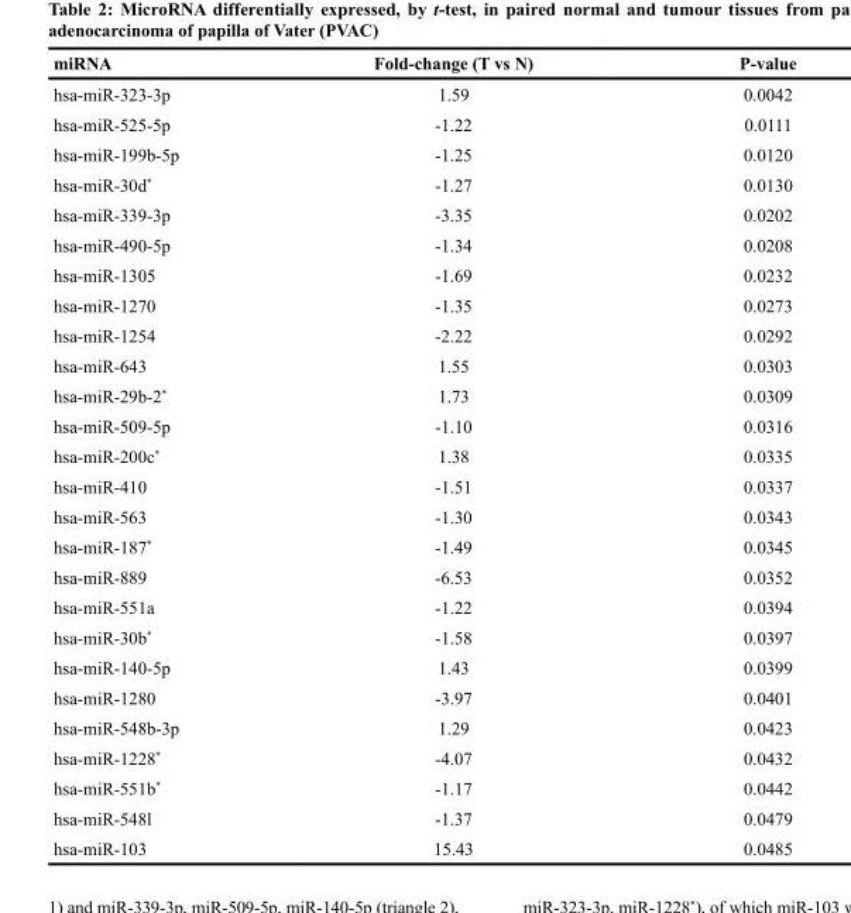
<table><thead><tr><td>miRNA</td><td>Fold-change (T vs N)</td><td>P-value</td></tr></thead><tbody><tr><td>hsa-miR-323-3p</td><td>1.59</td><td>0.0042</td></tr><tr><td>hsa-miR-525-5p</td><td>-1.22</td><td>0.0111</td></tr><tr><td>hsa-miR-199b-5p</td><td>-1.25</td><td>0.0120</td></tr><tr><td>hsa-miR-30d*</td><td>-1.27</td><td>0.0130</td></tr><tr><td>hsa-miR-339-3p</td><td>-3.35</td><td>0.0202</td></tr><tr><td>hsa-miR-490-5p</td><td>-1.34</td><td>0.0208</td></tr><tr><td>hsa-miR-1305</td><td>-1.69</td><td>0.0232</td></tr><tr><td>hsa-miR-1270</td><td>-1.35</td><td>0.0273</td></tr><tr><td>hsa-miR-1254</td><td>-2.22</td><td>0.0292</td></tr><tr><td>hsa-miR-643</td><td>1.55</td><td>0.0303</td></tr><tr><td>hsa-miR-29b-2*</td><td>1.73</td><td>0.0309</td></tr><tr><td>hsa-miR-509-5p</td><td>-1.10</td><td>0.0316</td></tr><tr><td>hsa-miR-200c*</td><td>1.38</td><td>0.0335</td></tr><tr><td>hsa-miR-410</td><td>-1.51</td><td>0.0337</td></tr><tr><td>hsa-miR-563</td><td>-1.30</td><td>0.0343</td></tr><tr><td>hsa-miR-187*</td><td>-1.49</td><td>0.0345</td></tr><tr><td>hsa-miR-889</td><td>-6.53</td><td>0.0352</td></tr><tr><td>hsa-miR-551a</td><td>-1.22</td><td>0.0394</td></tr><tr><td>hsa-miR-30b*</td><td>-1.58</td><td>0.0397</td></tr><tr><td>hsa-miR-140-5p</td><td>1.43</td><td>0.0399</td></tr><tr><td>hsa-miR-1280</td><td>-3.97</td><td>0.0401</td></tr><tr><td>hsa-miR-548b-3p</td><td>1.29</td><td>0.0423</td></tr><tr><td>hsa-miR-1228*</td><td>-4.07</td><td>0.0432</td></tr><tr><td>hsa-miR-551b*</td><td>-1.17</td><td>0.0442</td></tr><tr><td>hsa-miR-548l</td><td>-1.37</td><td>0.0479</td></tr><tr><td>hsa-miR-103</td><td>15.43</td><td>0.0485</td></tr></tbody></table>